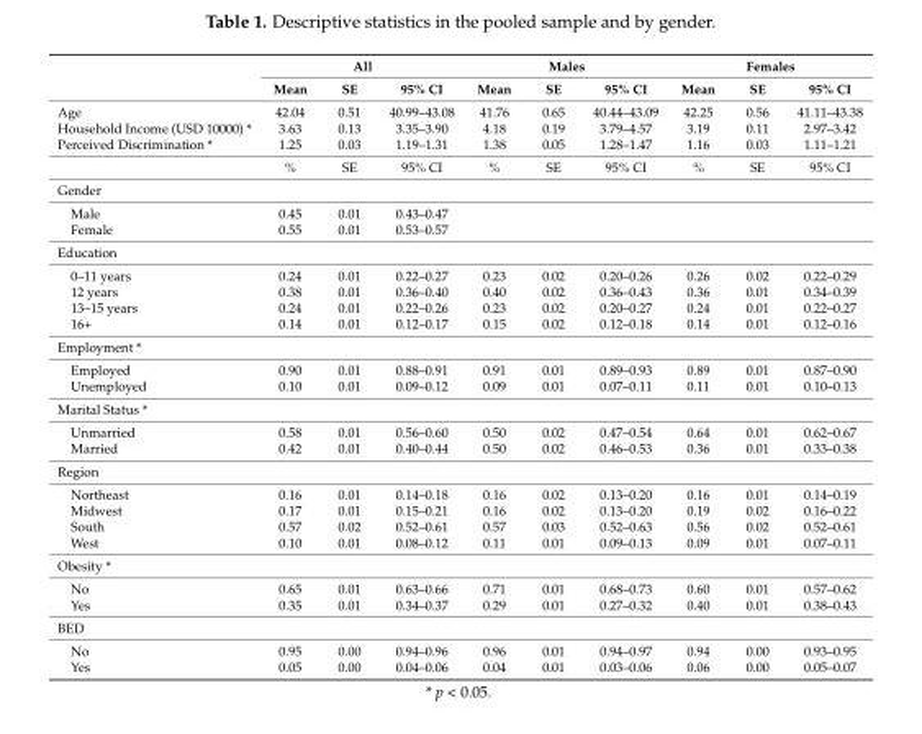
<table><thead><tr><td rowspan="2"></td><td colspan="3">All</td><td colspan="3">Males</td><td colspan="3">Females</td></tr><tr><td>Mean</td><td>SE</td><td>95% CI</td><td>Mean</td><td>SE</td><td>95% CI</td><td>Mean</td><td>SE</td><td>95% CI</td></tr></thead><tbody><tr><td>Age</td><td>42.04</td><td>0.51</td><td>40.99–43.08</td><td>41.76</td><td>0.65</td><td>40.44–43.09</td><td>42.25</td><td>0.56</td><td>41.11–43.38</td></tr><tr><td>Household Income (USD 10000) *</td><td>3.63</td><td>0.13</td><td>3.35–3.90</td><td>4.18</td><td>0.19</td><td>3.79–4.57</td><td>3.19</td><td>0.11</td><td>2.97–3.42</td></tr><tr><td rowspan="2">Perceived Discrimination *</td><td>1.25</td><td>0.03</td><td>1.19–1.31</td><td>1.38</td><td>0.05</td><td>1.28–1.47</td><td>1.16</td><td>0.03</td><td>1.11–1.21</td></tr><tr><td>%</td><td>SE</td><td>95% CI</td><td>%</td><td>SE</td><td>95% CI</td><td>%</td><td>SE</td><td>95% CI</td></tr><tr><td colspan="10">Gender</td></tr><tr><td>Male</td><td>0.45</td><td>0.01</td><td>0.43–0.47</td><td></td><td></td><td></td><td></td><td></td><td></td></tr><tr><td>Female</td><td>0.55</td><td>0.01</td><td>0.53–0.57</td><td></td><td></td><td></td><td></td><td></td><td></td></tr><tr><td colspan="10">Education</td></tr><tr><td>0–11 years</td><td>0.24</td><td>0.01</td><td>0.22–0.27</td><td>0.23</td><td>0.02</td><td>0.20–0.26</td><td>0.26</td><td>0.02</td><td>0.22–0.29</td></tr><tr><td>12 years</td><td>0.38</td><td>0.01</td><td>0.36–0.40</td><td>0.40</td><td>0.02</td><td>0.36–0.43</td><td>0.36</td><td>0.01</td><td>0.34–0.39</td></tr><tr><td>13–15 years</td><td>0.24</td><td>0.01</td><td>0.22–0.26</td><td>0.23</td><td>0.02</td><td>0.20–0.27</td><td>0.24</td><td>0.01</td><td>0.22–0.27</td></tr><tr><td>16+</td><td>0.14</td><td>0.01</td><td>0.12–0.17</td><td>0.15</td><td>0.02</td><td>0.12–0.18</td><td>0.14</td><td>0.01</td><td>0.12–0.16</td></tr><tr><td colspan="10">Employment *</td></tr><tr><td>Employed</td><td>0.90</td><td>0.01</td><td>0.88–0.91</td><td>0.91</td><td>0.01</td><td>0.89–0.93</td><td>0.89</td><td>0.01</td><td>0.87–0.90</td></tr><tr><td>Unemployed</td><td>0.10</td><td>0.01</td><td>0.09–0.12</td><td>0.09</td><td>0.01</td><td>0.07–0.11</td><td>0.11</td><td>0.01</td><td>0.10–0.13</td></tr><tr><td colspan="10">Marital Status *</td></tr><tr><td>Unmarried</td><td>0.58</td><td>0.01</td><td>0.56–0.60</td><td>0.50</td><td>0.02</td><td>0.47–0.54</td><td>0.64</td><td>0.01</td><td>0.62–0.67</td></tr><tr><td>Married</td><td>0.42</td><td>0.01</td><td>0.40–0.44</td><td>0.50</td><td>0.02</td><td>0.46–0.53</td><td>0.36</td><td>0.01</td><td>0.33–0.38</td></tr><tr><td colspan="10">Region</td></tr><tr><td>Northeast</td><td>0.16</td><td>0.01</td><td>0.14–0.18</td><td>0.16</td><td>0.02</td><td>0.13–0.20</td><td>0.16</td><td>0.01</td><td>0.14–0.19</td></tr><tr><td>Midwest</td><td>0.17</td><td>0.01</td><td>0.15–0.21</td><td>0.16</td><td>0.02</td><td>0.13–0.20</td><td>0.19</td><td>0.02</td><td>0.16–0.22</td></tr><tr><td>South</td><td>0.57</td><td>0.02</td><td>0.52–0.61</td><td>0.57</td><td>0.03</td><td>0.52–0.63</td><td>0.56</td><td>0.02</td><td>0.52–0.61</td></tr><tr><td>West</td><td>0.10</td><td>0.01</td><td>0.08–0.12</td><td>0.11</td><td>0.01</td><td>0.09–0.13</td><td>0.09</td><td>0.01</td><td>0.07–0.11</td></tr><tr><td colspan="10">Obesity *</td></tr><tr><td>No</td><td>0.65</td><td>0.01</td><td>0.63–0.66</td><td>0.71</td><td>0.01</td><td>0.68–0.73</td><td>0.60</td><td>0.01</td><td>0.57–0.62</td></tr><tr><td>Yes</td><td>0.35</td><td>0.01</td><td>0.34–0.37</td><td>0.29</td><td>0.01</td><td>0.27–0.32</td><td>0.40</td><td>0.01</td><td>0.38–0.43</td></tr><tr><td colspan="10">BED</td></tr><tr><td>No</td><td>0.95</td><td>0.00</td><td>0.94–0.96</td><td>0.96</td><td>0.01</td><td>0.94–0.97</td><td>0.94</td><td>0.00</td><td>0.93–0.95</td></tr><tr><td>Yes</td><td>0.05</td><td>0.00</td><td>0.04–0.06</td><td>0.04</td><td>0.01</td><td>0.03–0.06</td><td>0.06</td><td>0.00</td><td>0.05–0.07</td></tr></tbody></table>